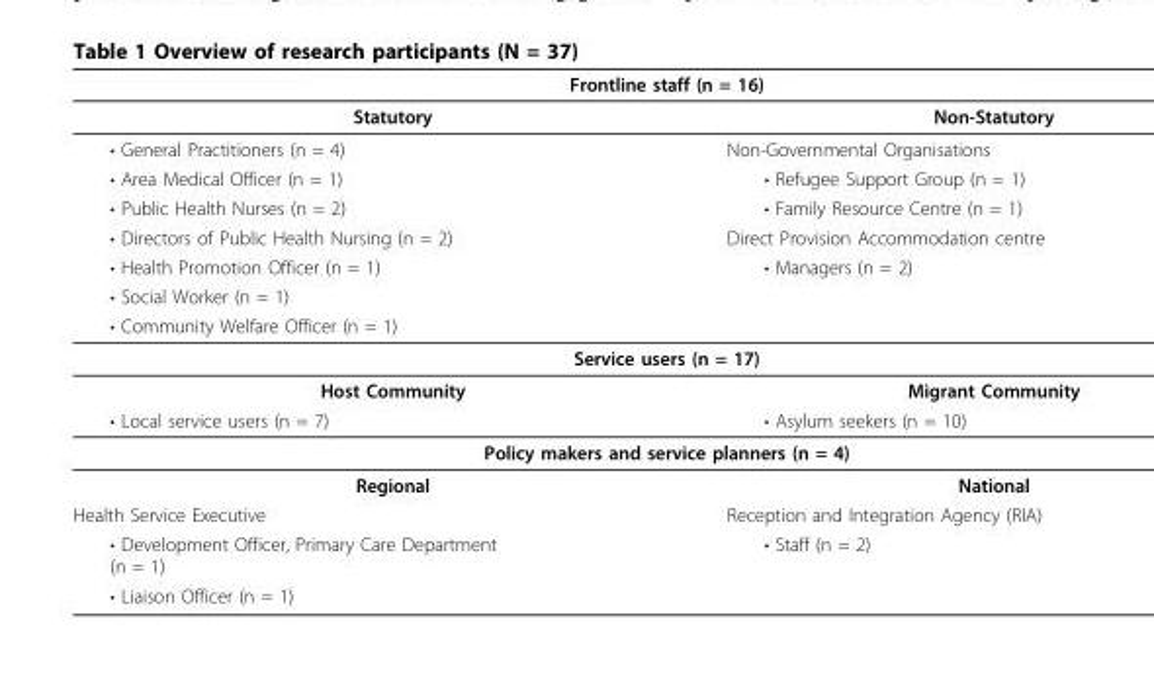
<table><thead><tr><td colspan="2">Frontline staff (n = 16)</td></tr><tr><td>Statutory</td><td>Non-Statutory</td></tr></thead><tbody><tr><td>• General Practitioners (n = 4)</td><td>Non-Governmental Organisations</td></tr><tr><td>• Area Medical Officer (n = 1)</td><td>• Refugee Support Group (n = 1)</td></tr><tr><td>• Public Health Nurses (n = 2)</td><td>• Family Resource Centre (n = 1)</td></tr><tr><td>• Directors of Public Health Nursing (n = 2)</td><td>Direct Provision Accommodation centre</td></tr><tr><td>• Health Promotion Officer (n = 1)</td><td>• Managers (n = 2)</td></tr><tr><td colspan="2">• Social Worker (n = 1)</td></tr><tr><td colspan="2">• Community Welfare Officer (n = 1)</td></tr><tr><td colspan="2">Service users (n = 17)</td></tr><tr><td>Host Community</td><td>Migrant Community</td></tr><tr><td>• Local service users (n = 7)</td><td>• Asylum seekers (n = 10)</td></tr><tr><td colspan="2">Policy makers and service planners (n = 4)</td></tr><tr><td>Regional</td><td>National</td></tr><tr><td>Health Service Executive</td><td>Reception and Integration Agency (RIA)</td></tr><tr><td>• Development Officer, Primary Care Department (n = 1)</td><td>• Staff (n = 2)</td></tr><tr><td>• Liaison Officer (n = 1)</td><td></td></tr></tbody></table>